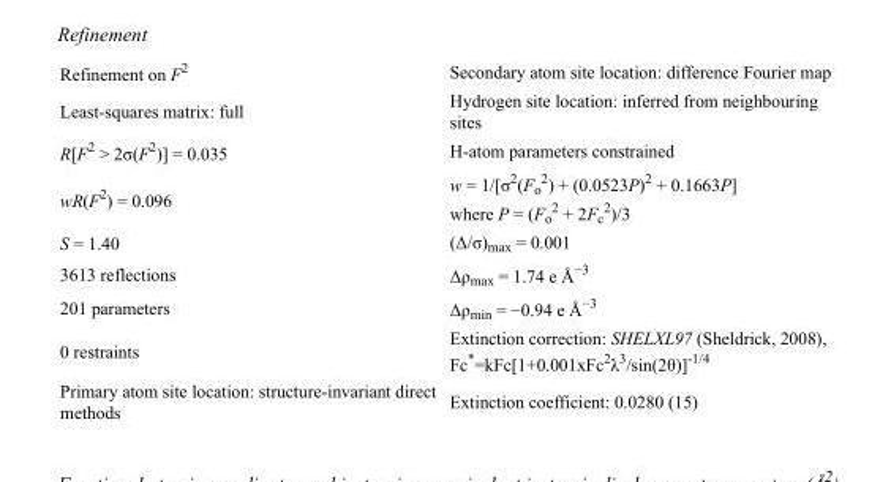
<table><tbody><tr><td>Refinement on F<sup>2</sup></td><td>Secondary atom site location: difference Fourier map</td></tr><tr><td>Least-squares matrix: full</td><td>Hydrogen site location: inferred from neighbouring sites</td></tr><tr><td>R[F<sup>2</sup> &gt; 2σ(F<sup>2</sup>)] = 0.035</td><td>H-atom parameters constrained</td></tr><tr><td>wR(F<sup>2</sup>) = 0.096</td><td>w = 1/[σ<sup>2</sup>(F<sub>o</sub> <sup>2</sup>) + (0.0523P)<sup>2</sup> + 0.1663P] where P = (F<sub>o</sub> <sup>2</sup> + 2F<sub>c</sub> <sup>2</sup>)/3</td></tr><tr><td>S = 1.40</td><td>(Δ/σ)<sub>max</sub> = 0.001</td></tr><tr><td>3613 reflections</td><td>Δρ<sub>max</sub> = 1.74 e Å<sup>−3</sup></td></tr><tr><td>201 parameters</td><td>Δρ<sub>min</sub> = −0.94 e Å<sup>−3</sup></td></tr><tr><td>0 restraints</td><td>Extinction correction: SHELXL97 (Sheldrick, 2008), Fc*=kFc[1+0.001xFc<sup>2</sup>λ<sup>3</sup>/sin(2θ)]<sup>-1/4</sup></td></tr><tr><td>Primary atom site location: structure-invariant direct methods</td><td>Extinction coefficient: 0.0280 (15)</td></tr></tbody></table>